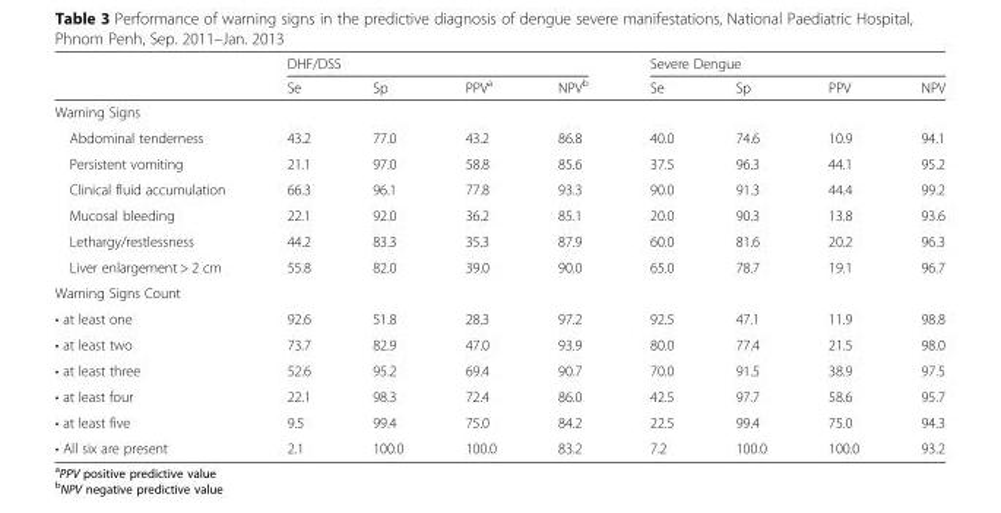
<table><thead><tr><td rowspan="2"></td><td colspan="4">DHF/DSS</td><td colspan="4">Severe Dengue</td></tr><tr><td>Se</td><td>Sp</td><td>PPV<sup>a</sup></td><td>NPV<sup>b</sup></td><td>Se</td><td>Sp</td><td>PPV</td><td>NPV</td></tr></thead><tbody><tr><td colspan="9">Warning Signs</td></tr><tr><td>Abdominal tenderness</td><td>43.2</td><td>77.0</td><td>43.2</td><td>86.8</td><td>40.0</td><td>74.6</td><td>10.9</td><td>94.1</td></tr><tr><td>Persistent vomiting</td><td>21.1</td><td>97.0</td><td>58.8</td><td>85.6</td><td>37.5</td><td>96.3</td><td>44.1</td><td>95.2</td></tr><tr><td>Clinical fluid accumulation</td><td>66.3</td><td>96.1</td><td>77.8</td><td>93.3</td><td>90.0</td><td>91.3</td><td>44.4</td><td>99.2</td></tr><tr><td>Mucosal bleeding</td><td>22.1</td><td>92.0</td><td>36.2</td><td>85.1</td><td>20.0</td><td>90.3</td><td>13.8</td><td>93.6</td></tr><tr><td>Lethargy/restlessness</td><td>44.2</td><td>83.3</td><td>35.3</td><td>87.9</td><td>60.0</td><td>81.6</td><td>20.2</td><td>96.3</td></tr><tr><td>Liver enlargement &gt; 2 cm</td><td>55.8</td><td>82.0</td><td>39.0</td><td>90.0</td><td>65.0</td><td>78.7</td><td>19.1</td><td>96.7</td></tr><tr><td colspan="9">Warning Signs Count</td></tr><tr><td>• at least one</td><td>92.6</td><td>51.8</td><td>28.3</td><td>97.2</td><td>92.5</td><td>47.1</td><td>11.9</td><td>98.8</td></tr><tr><td>• at least two</td><td>73.7</td><td>82.9</td><td>47.0</td><td>93.9</td><td>80.0</td><td>77.4</td><td>21.5</td><td>98.0</td></tr><tr><td>• at least three</td><td>52.6</td><td>95.2</td><td>69.4</td><td>90.7</td><td>70.0</td><td>91.5</td><td>38.9</td><td>97.5</td></tr><tr><td>• at least four</td><td>22.1</td><td>98.3</td><td>72.4</td><td>86.0</td><td>42.5</td><td>97.7</td><td>58.6</td><td>95.7</td></tr><tr><td>• at least five</td><td>9.5</td><td>99.4</td><td>75.0</td><td>84.2</td><td>22.5</td><td>99.4</td><td>75.0</td><td>94.3</td></tr><tr><td>• All six are present</td><td>2.1</td><td>100.0</td><td>100.0</td><td>83.2</td><td>7.2</td><td>100.0</td><td>100.0</td><td>93.2</td></tr></tbody></table>